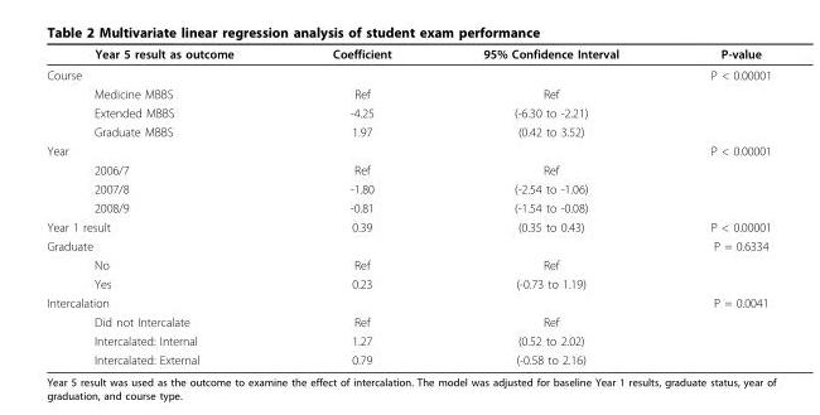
<table><thead><tr><td>Year 5 result as outcome</td><td>Coefficient</td><td>95% Confidence Interval</td><td>P-value</td></tr></thead><tbody><tr><td>Course</td><td></td><td></td><td>P &lt; 0.00001</td></tr><tr><td>Medicine MBBS</td><td>Ref</td><td>Ref</td><td></td></tr><tr><td>Extended MBBS</td><td>-4.25</td><td>(-6.30 to -2.21)</td><td></td></tr><tr><td>Graduate MBBS</td><td>1.97</td><td>(0.42 to 3.52)</td><td></td></tr><tr><td>Year</td><td></td><td></td><td>P &lt; 0.00001</td></tr><tr><td>2006/7</td><td>Ref</td><td>Ref</td><td></td></tr><tr><td>2007/8</td><td>-1.80</td><td>(-2.54 to -1.06)</td><td></td></tr><tr><td>2008/9</td><td>-0.81</td><td>(-1.54 to -0.08)</td><td></td></tr><tr><td>Year 1 result</td><td>0.39</td><td>(0.35 to 0.43)</td><td>P &lt; 0.00001</td></tr><tr><td>Graduate</td><td></td><td></td><td>P = 0.6334</td></tr><tr><td>No</td><td>Ref</td><td>Ref</td><td></td></tr><tr><td>Yes</td><td>0.23</td><td>(-0.73 to 1.19)</td><td></td></tr><tr><td>Intercalation</td><td></td><td></td><td>P = 0.0041</td></tr><tr><td>Did not Intercalate</td><td>Ref</td><td>Ref</td><td></td></tr><tr><td>Intercalated: Internal</td><td>1.27</td><td>(0.52 to 2.02)</td><td></td></tr><tr><td>Intercalated: External</td><td>0.79</td><td>(-0.58 to 2.16)</td><td></td></tr></tbody></table>